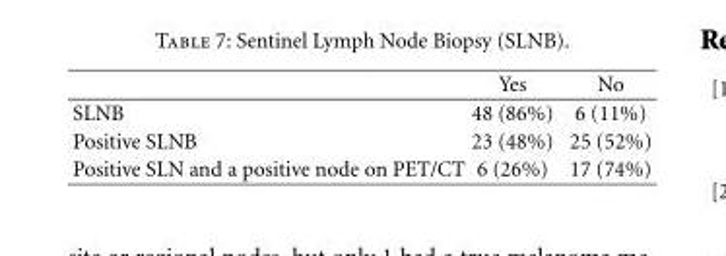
<table><thead><tr><td></td><td>Yes</td><td>No</td></tr></thead><tbody><tr><td>SLNB</td><td>48 (86%)</td><td>6 (11%)</td></tr><tr><td>Positive SLNB</td><td>23 (48%)</td><td>25 (52%)</td></tr><tr><td>Positive SLN and a positive node on PET/CT</td><td>6 (26%)</td><td>17 (74%)</td></tr></tbody></table>